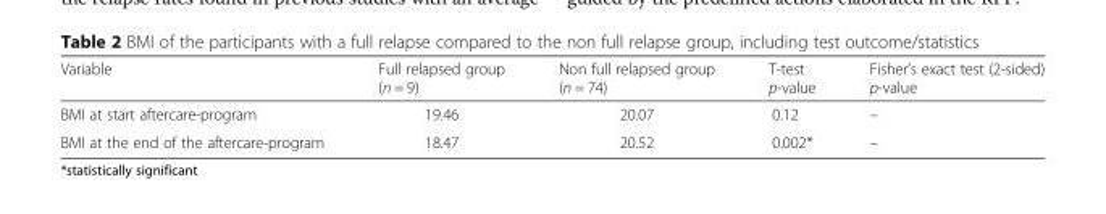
<table><thead><tr><td>Variable</td><td>Full relapsed group (n = 9)</td><td>Non full relapsed group (n = 74)</td><td>T-test p-value</td><td>Fisher’s exact test (2-sided) p-value</td></tr></thead><tbody><tr><td>BMI at start aftercare-program</td><td>19.46</td><td>20.07</td><td>0.12</td><td>–</td></tr><tr><td>BMI at the end of the aftercare-program</td><td>18.47</td><td>20.52</td><td>0.002*</td><td>–</td></tr></tbody></table>